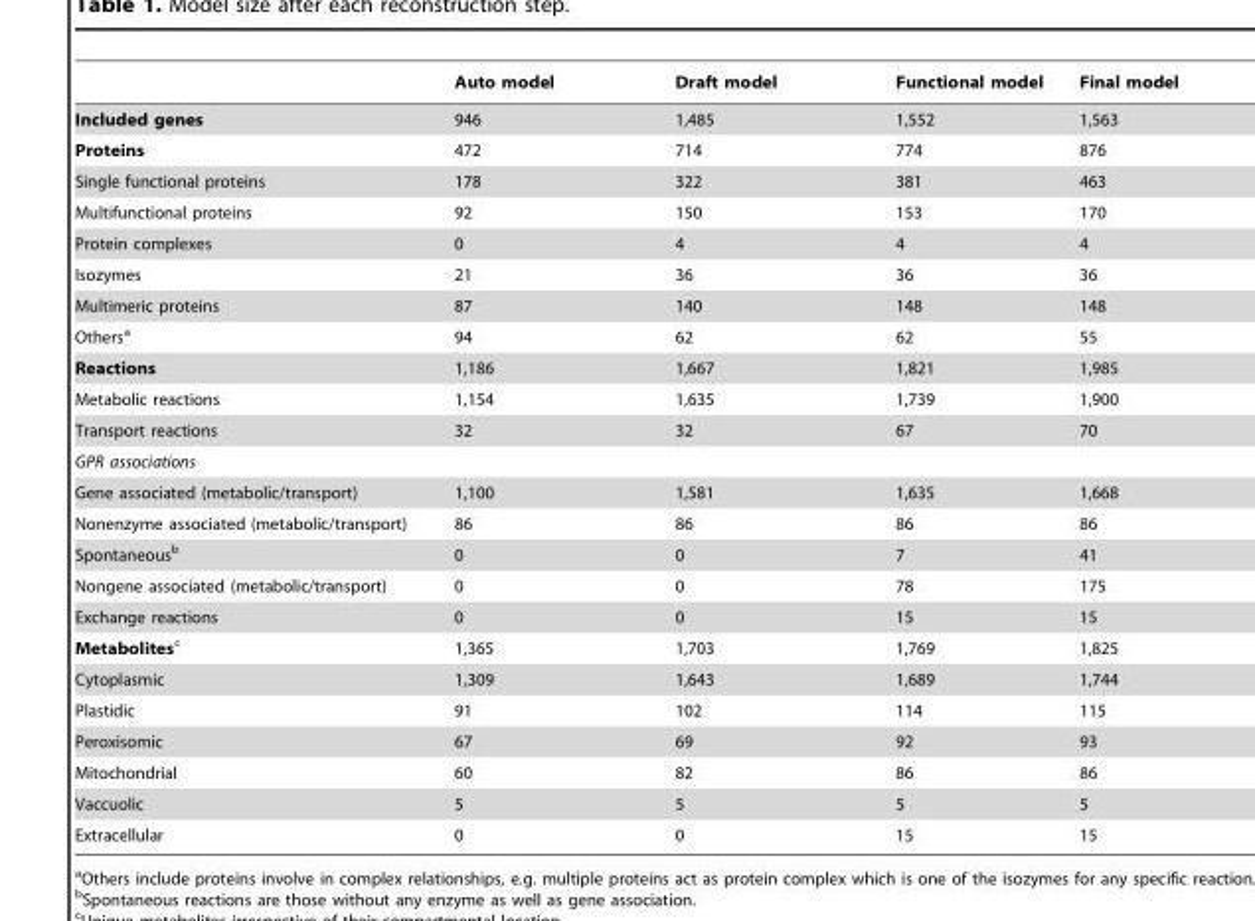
<table><thead><tr><td></td><td>Auto model</td><td>Draft model</td><td>Functional model</td><td>Final model</td></tr></thead><tbody><tr><td>Included genes</td><td>946</td><td>1,485</td><td>1,552</td><td>1,563</td></tr><tr><td>Proteins</td><td>472</td><td>714</td><td>774</td><td>876</td></tr><tr><td>Single functional proteins</td><td>178</td><td>322</td><td>381</td><td>463</td></tr><tr><td>Multifunctional proteins</td><td>92</td><td>150</td><td>153</td><td>170</td></tr><tr><td>Protein complexes</td><td>0</td><td>4</td><td>4</td><td>4</td></tr><tr><td>Isozymes</td><td>21</td><td>36</td><td>36</td><td>36</td></tr><tr><td>Multimeric proteins</td><td>87</td><td>140</td><td>148</td><td>148</td></tr><tr><td>Others<sup>a</sup></td><td>94</td><td>62</td><td>62</td><td>55</td></tr><tr><td>Reactions</td><td>1,186</td><td>1,667</td><td>1,821</td><td>1,985</td></tr><tr><td>Metabolic reactions</td><td>1,154</td><td>1,635</td><td>1,739</td><td>1,900</td></tr><tr><td>Transport reactions</td><td>32</td><td>32</td><td>67</td><td>70</td></tr><tr><td colspan="5">GPR associations</td></tr><tr><td>Gene associated (metabolic/transport)</td><td>1,100</td><td>1,581</td><td>1,635</td><td>1,668</td></tr><tr><td>Nonenzyme associated (metabolic/transport)</td><td>86</td><td>86</td><td>86</td><td>86</td></tr><tr><td>Spontaneous<sup>b</sup></td><td>0</td><td>0</td><td>7</td><td>41</td></tr><tr><td>Nongene associated (metabolic/transport)</td><td>0</td><td>0</td><td>78</td><td>175</td></tr><tr><td>Exchange reactions</td><td>0</td><td>0</td><td>15</td><td>15</td></tr><tr><td>Metabolitesc</td><td>1,365</td><td>1,703</td><td>1,769</td><td>1,825</td></tr><tr><td>Cytoplasmic</td><td>1,309</td><td>1,643</td><td>1,689</td><td>1,744</td></tr><tr><td>Plastidic</td><td>91</td><td>102</td><td>114</td><td>115</td></tr><tr><td>Peroxisomic</td><td>67</td><td>69</td><td>92</td><td>93</td></tr><tr><td>Mitochondrial</td><td>60</td><td>82</td><td>86</td><td>86</td></tr><tr><td>Vaccuolic</td><td>5</td><td>5</td><td>5</td><td>5</td></tr><tr><td>Extracellular</td><td>0</td><td>0</td><td>15</td><td>15</td></tr></tbody></table>